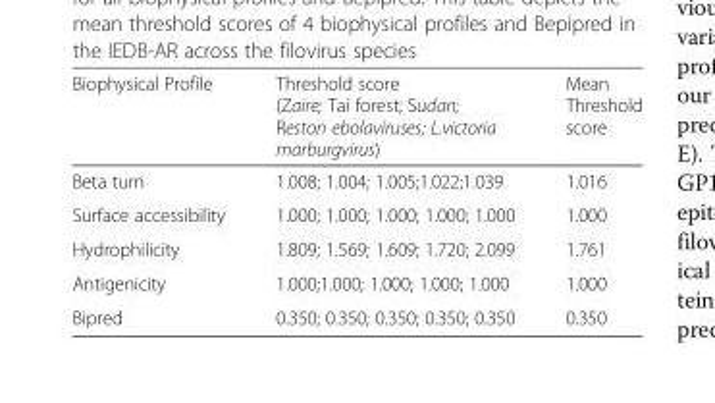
<table><thead><tr><td>Biophysical Profile</td><td>Threshold score (Zaire; Tai forest; Sudan; Reston ebolaviruses; L.victoria marburgvirus)</td><td>Mean Threshold score</td></tr></thead><tbody><tr><td>Beta turn</td><td>1.008; 1.004; 1.005;1.022;1.039</td><td>1.016</td></tr><tr><td>Surface accessibility</td><td>1.000; 1.000; 1.000; 1.000; 1.000</td><td>1.000</td></tr><tr><td>Hydrophilicity</td><td>1.809; 1.569; 1.609; 1.720; 2.099</td><td>1.761</td></tr><tr><td>Antigenicity</td><td>1.000;1.000; 1.000; 1.000; 1.000</td><td>1.000</td></tr><tr><td>Bipred</td><td>0.350; 0.350; 0.350; 0.350; 0.350</td><td>0.350</td></tr></tbody></table>